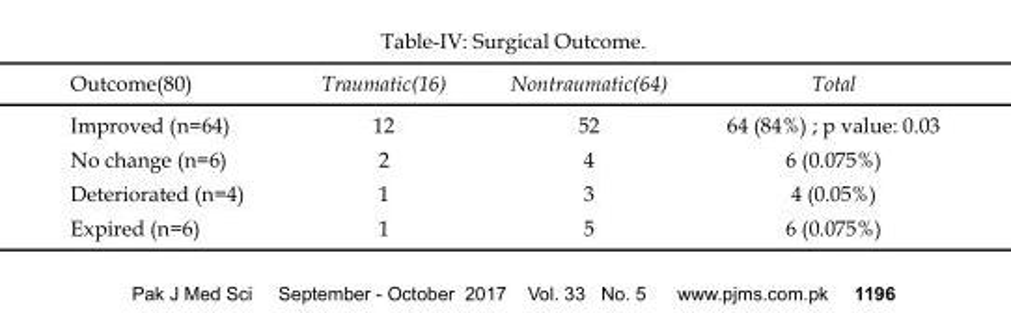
<table><thead><tr><td>Outcome(80)</td><td>Traumatic(16)</td><td>Nontraumatic(64)</td><td>Total</td></tr></thead><tbody><tr><td>Improved (n=64)</td><td>12</td><td>52</td><td>64 (84%) ; p value: 0.03</td></tr><tr><td>No change (n=6)</td><td>2</td><td>4</td><td>6 (0.075%)</td></tr><tr><td>Deteriorated (n=4)</td><td>1</td><td>3</td><td>4 (0.05%)</td></tr><tr><td>Expired (n=6)</td><td>1</td><td>5</td><td>6 (0.075%)</td></tr></tbody></table>